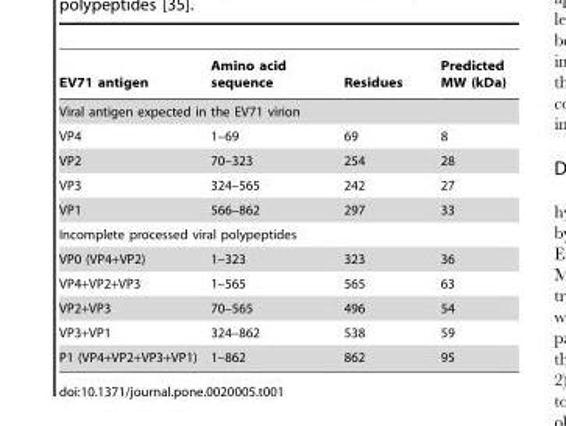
<table><thead><tr><td>EV71 antigen</td><td>Amino acid sequence</td><td>Residues</td><td>Predicted MW (kDa)</td></tr></thead><tbody><tr><td colspan="4">Viral antigen expected in the EV71 virion</td></tr><tr><td>VP4</td><td>1–69</td><td>69</td><td>8</td></tr><tr><td>VP2</td><td>70–323</td><td>254</td><td>28</td></tr><tr><td>VP3</td><td>324–565</td><td>242</td><td>27</td></tr><tr><td>VP1</td><td>566–862</td><td>297</td><td>33</td></tr><tr><td colspan="4">Incomplete processed viral polypeptides</td></tr><tr><td>VP0 (VP4+VP2)</td><td>1–323</td><td>323</td><td>36</td></tr><tr><td>VP4+VP2+VP3</td><td>1–565</td><td>565</td><td>63</td></tr><tr><td>VP2+VP3</td><td>70–565</td><td>496</td><td>54</td></tr><tr><td>VP3+VP1</td><td>324–862</td><td>538</td><td>59</td></tr><tr><td>P1 (VP4+VP2+VP3+VP1)</td><td>1–862</td><td>862</td><td>95</td></tr></tbody></table>